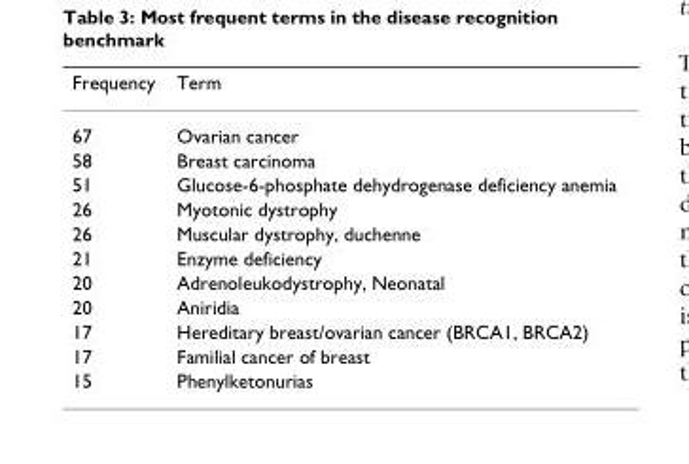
<table><thead><tr><td>Frequency</td><td>Term</td></tr></thead><tbody><tr><td>67</td><td>Ovarian cancer</td></tr><tr><td>58</td><td>Breast carcinoma</td></tr><tr><td>51</td><td>Glucose-6-phosphate dehydrogenase deficiency anemia</td></tr><tr><td>26</td><td>Myotonic dystrophy</td></tr><tr><td>26</td><td>Muscular dystrophy, duchenne</td></tr><tr><td>21</td><td>Enzyme deficiency</td></tr><tr><td>20</td><td>Adrenoleukodystrophy, Neonatal</td></tr><tr><td>20</td><td>Aniridia</td></tr><tr><td>17</td><td>Hereditary breast/ovarian cancer (BRCA1, BRCA2)</td></tr><tr><td>17</td><td>Familial cancer of breast</td></tr><tr><td>15</td><td>Phenylketonurias</td></tr></tbody></table>